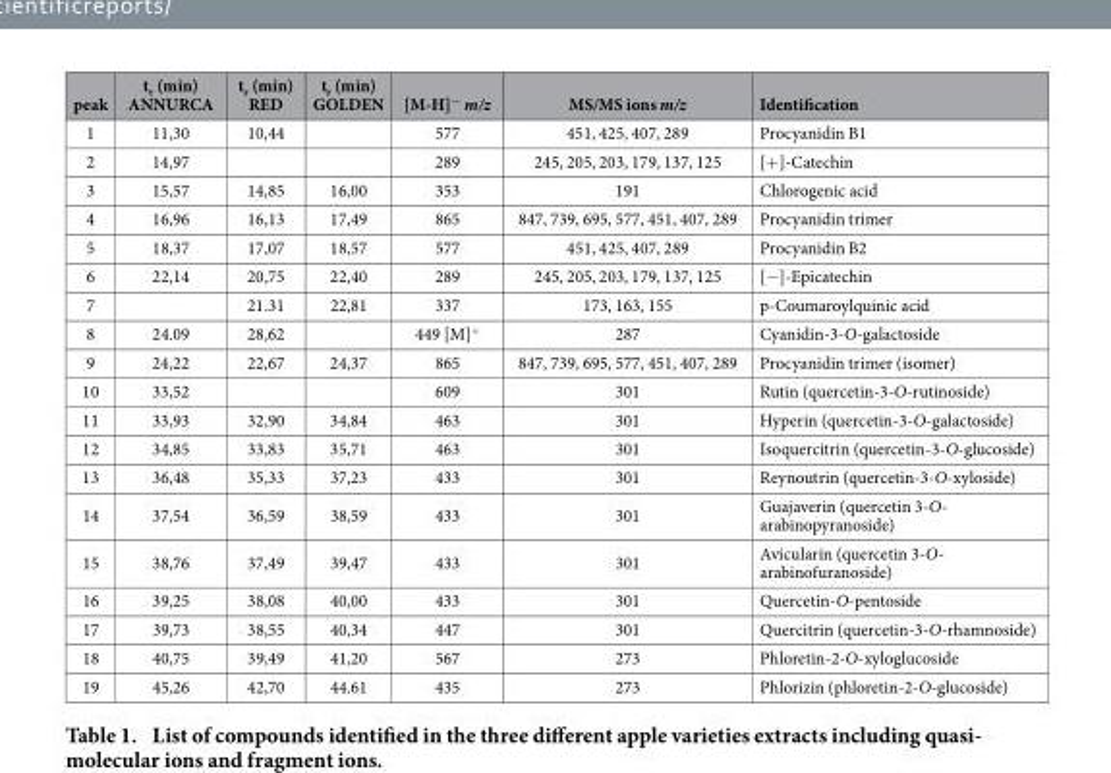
<table><thead><tr><td>peak</td><td>t<sub>r</sub> (min) ANNURCA</td><td>t<sub>r</sub> (min) RED</td><td>t<sub>r</sub> (min) GOLDEN</td><td>[M-H]<sup>−</sup> m/z</td><td>MS/MS ions m/z</td><td>Identification</td></tr></thead><tbody><tr><td>1</td><td>11,30</td><td>10,44</td><td></td><td>577</td><td>451, 425, 407, 289</td><td>Procyanidin B1</td></tr><tr><td>2</td><td>14,97</td><td></td><td></td><td>289</td><td>245, 205, 203, 179, 137, 125</td><td>[+ ]-Catechin</td></tr><tr><td>3</td><td>15,57</td><td>14,85</td><td>16,00</td><td>353</td><td>191</td><td>Chlorogenic acid</td></tr><tr><td>4</td><td>16,96</td><td>16,13</td><td>17,49</td><td>865</td><td>847, 739, 695, 577, 451, 407, 289</td><td>Procyanidin trimer</td></tr><tr><td>5</td><td>18,37</td><td>17,07</td><td>18,57</td><td>577</td><td>451, 425, 407, 289</td><td>Procyanidin B2</td></tr><tr><td>6</td><td>22,14</td><td>20,75</td><td>22,40</td><td>289</td><td>245, 205, 203, 179, 137, 125</td><td>[− ]-Epicatechin</td></tr><tr><td>7</td><td></td><td>21.31</td><td>22,81</td><td>337</td><td>173, 163, 155</td><td>p-Coumaroylquinic acid</td></tr><tr><td>8</td><td>24.09</td><td>28,62</td><td></td><td>449 [M]<sup>+</sup></td><td>287</td><td>Cyanidin-3-O-galactoside</td></tr><tr><td>9</td><td>24,22</td><td>22,67</td><td>24,37</td><td>865</td><td>847, 739, 695, 577, 451, 407, 289</td><td>Procyanidin trimer (isomer)</td></tr><tr><td>10</td><td>33,52</td><td></td><td></td><td>609</td><td>301</td><td>Rutin (quercetin-3-O-rutinoside)</td></tr><tr><td>11</td><td>33,93</td><td>32,90</td><td>34,84</td><td>463</td><td>301</td><td>Hyperin (quercetin-3-O-galactoside)</td></tr><tr><td>12</td><td>34,85</td><td>33,83</td><td>35,71</td><td>463</td><td>301</td><td>Isoquercitrin (quercetin-3-O-glucoside)</td></tr><tr><td>13</td><td>36,48</td><td>35,33</td><td>37,23</td><td>433</td><td>301</td><td>Reynoutrin (quercetin-3-O-xyloside)</td></tr><tr><td>14</td><td>37,54</td><td>36,59</td><td>38,59</td><td>433</td><td>301</td><td>Guajaverin (quercetin 3-O- arabinopyranoside)</td></tr><tr><td>15</td><td>38,76</td><td>37,49</td><td>39,47</td><td>433</td><td>301</td><td>Avicularin (quercetin 3-O- arabinofuranoside)</td></tr><tr><td>16</td><td>39,25</td><td>38,08</td><td>40,00</td><td>433</td><td>301</td><td>Quercetin-O-pentoside</td></tr><tr><td>17</td><td>39,73</td><td>38,55</td><td>40,34</td><td>447</td><td>301</td><td>Quercitrin (quercetin-3-O-rhamnoside)</td></tr><tr><td>18</td><td>40,75</td><td>39,49</td><td>41,20</td><td>567</td><td>273</td><td>Phloretin-2-O-xyloglucoside</td></tr><tr><td>19</td><td>45,26</td><td>42,70</td><td>44.61</td><td>435</td><td>273</td><td>Phlorizin (phloretin-2-O-glucoside)</td></tr></tbody></table>